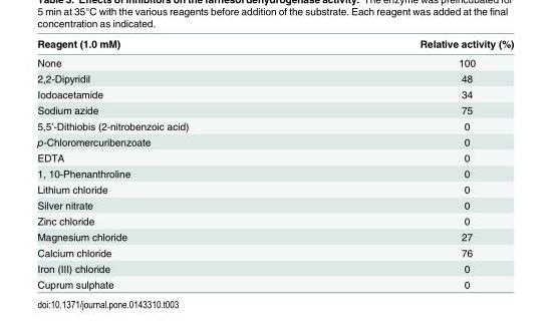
<table><thead><tr><td>Reagent (1.0 mM)</td><td>Relative activity (%)</td></tr></thead><tbody><tr><td>None</td><td>100</td></tr><tr><td>2,2-Dipyridil</td><td>48</td></tr><tr><td>Iodoacetamide</td><td>34</td></tr><tr><td>Sodium azide</td><td>75</td></tr><tr><td>5,5’-Dithiobis (2-nitrobenzoic acid)</td><td>0</td></tr><tr><td>p-Chloromercuribenzoate</td><td>0</td></tr><tr><td>EDTA</td><td>0</td></tr><tr><td>1, 10-Phenanthroline</td><td>0</td></tr><tr><td>Lithium chloride</td><td>0</td></tr><tr><td>Silver nitrate</td><td>0</td></tr><tr><td>Zinc chloride</td><td>0</td></tr><tr><td>Magnesium chloride</td><td>27</td></tr><tr><td>Calcium chloride</td><td>76</td></tr><tr><td>Iron (III) chloride</td><td>0</td></tr><tr><td>Cuprum sulphate</td><td>0</td></tr></tbody></table>